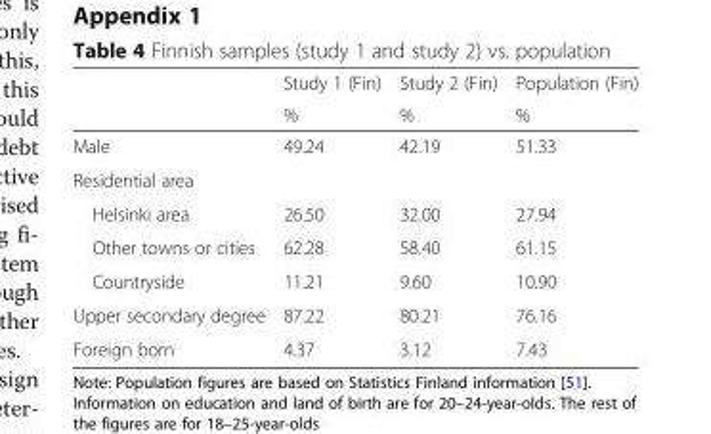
<table><thead><tr><td rowspan="2"></td><td rowspan="2">Study 1 (Fin) %</td><td rowspan="2">Study 2 (Fin) %</td><td rowspan="2">Population (Fin) %</td></tr><tr></tr></thead><tbody><tr><td>Male</td><td>49.24</td><td>42.19</td><td>51.33</td></tr><tr><td colspan="4">Residential area</td></tr><tr><td>Helsinki area</td><td>26.50</td><td>32.00</td><td>27.94</td></tr><tr><td>Other towns or cities</td><td>62.28</td><td>58.40</td><td>61.15</td></tr><tr><td>Countryside</td><td>11.21</td><td>9.60</td><td>10.90</td></tr><tr><td>Upper secondary degree</td><td>87.22</td><td>80.21</td><td>76.16</td></tr><tr><td>Foreign born</td><td>4.37</td><td>3.12</td><td>7.43</td></tr></tbody></table>